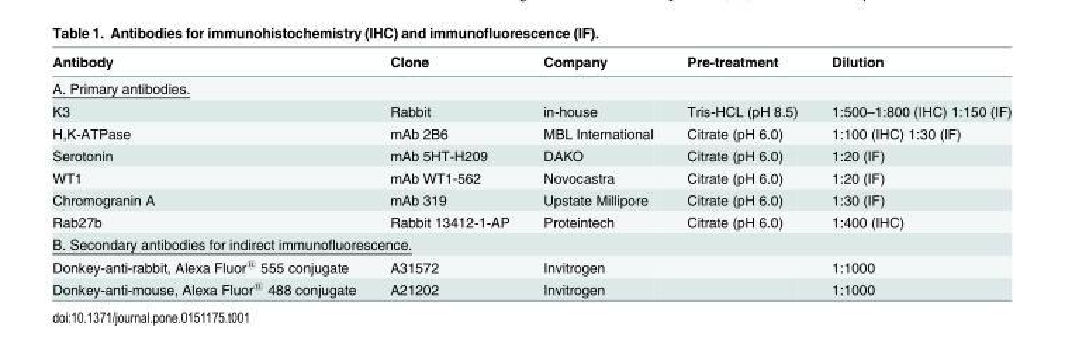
<table><thead><tr><td>Antibody</td><td>Clone</td><td>Company</td><td>Pre-treatment</td><td>Dilution</td></tr></thead><tbody><tr><td colspan="5">A. Primary antibodies.</td></tr><tr><td>K3</td><td>Rabbit</td><td>in-house</td><td>Tris-HCL (pH 8.5)</td><td>1:500–1:800 (IHC) 1:150 (IF)</td></tr><tr><td>H,K-ATPase</td><td>mAb 2B6</td><td>MBL International</td><td>Citrate (pH 6.0)</td><td>1:100 (IHC) 1:30 (IF)</td></tr><tr><td>Serotonin</td><td>mAb 5HT-H209</td><td>DAKO</td><td>Citrate (pH 6.0)</td><td>1:20 (IF)</td></tr><tr><td>WT1</td><td>mAb WT1-562</td><td>Novocastra</td><td>Citrate (pH 6.0)</td><td>1:20 (IF)</td></tr><tr><td>Chromogranin A</td><td>mAb 319</td><td>Upstate Millipore</td><td>Citrate (pH 6.0)</td><td>1:30 (IF)</td></tr><tr><td>Rab27b</td><td>Rabbit 13412-1-AP</td><td>Proteintech</td><td>Citrate (pH 6.0)</td><td>1:400 (IHC)</td></tr><tr><td colspan="5">B. Secondary antibodies for indirect immunofluorescence.</td></tr><tr><td>Donkey-anti-rabbit, Alexa Fluor<sup>®</sup> 555 conjugate</td><td>A31572</td><td>Invitrogen</td><td></td><td>1:1000</td></tr><tr><td>Donkey-anti-mouse, Alexa Fluor<sup>®</sup> 488 conjugate</td><td>A21202</td><td>Invitrogen</td><td></td><td>1:1000</td></tr></tbody></table>